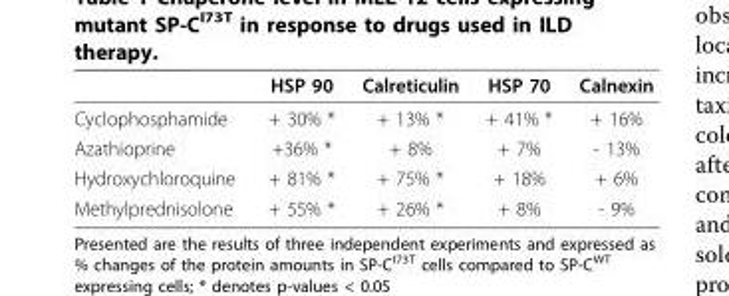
<table><thead><tr><td></td><td>HSP 90</td><td>Calreticulin</td><td>HSP 70</td><td>Calnexin</td></tr></thead><tbody><tr><td>Cyclophosphamide</td><td>+ 30% *</td><td>+ 13% *</td><td>+ 41% *</td><td>+ 16%</td></tr><tr><td>Azathioprine</td><td>+36% *</td><td>+ 8%</td><td>+ 7%</td><td>- 13%</td></tr><tr><td>Hydroxychloroquine</td><td>+ 81% *</td><td>+ 75% *</td><td>+ 18%</td><td>+ 6%</td></tr><tr><td>Methylprednisolone</td><td>+ 55% *</td><td>+ 26% *</td><td>+ 8%</td><td>- 9%</td></tr></tbody></table>